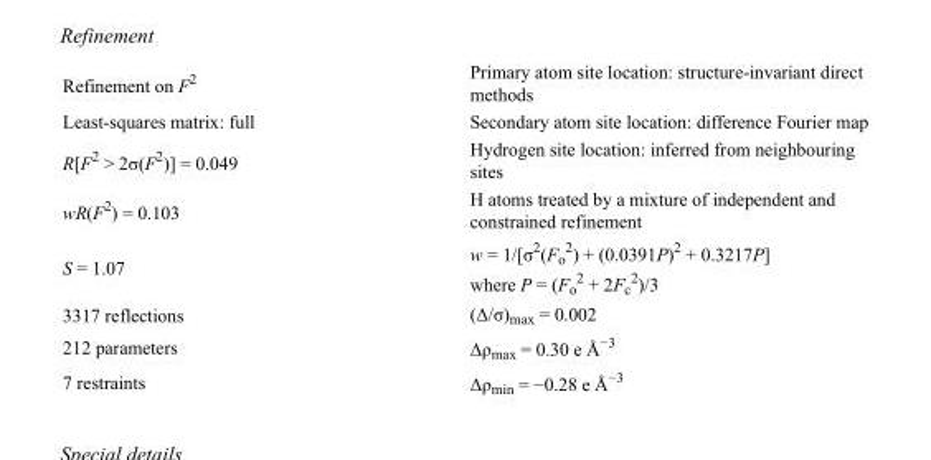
<table><tbody><tr><td>Refinement on F<sup>2</sup></td><td>Primary atom site location: structure-invariant direct methods</td></tr><tr><td>Least-squares matrix: full</td><td>Secondary atom site location: difference Fourier map</td></tr><tr><td>R[F<sup>2</sup> &gt; 2σ(F<sup>2</sup>)] = 0.049</td><td>Hydrogen site location: inferred from neighbouring sites</td></tr><tr><td>wR(F<sup>2</sup>) = 0.103</td><td>H atoms treated by a mixture of independent and constrained refinement</td></tr><tr><td>S = 1.07</td><td>w = 1/[σ<sup>2</sup>(F<sub>o</sub> <sup>2</sup>) + (0.0391P)<sup>2</sup> + 0.3217P] where P = (F<sub>o</sub> <sup>2</sup> + 2F<sub>c</sub> <sup>2</sup>)/3</td></tr><tr><td>3317 reflections</td><td>(Δ/σ)<sub>max</sub> = 0.002</td></tr><tr><td>212 parameters</td><td>Δρ<sub>max</sub> = 0.30 e Å<sup>−3</sup></td></tr><tr><td>7 restraints</td><td>Δρ<sub>min</sub> = −0.28 e Å<sup>−3</sup></td></tr></tbody></table>